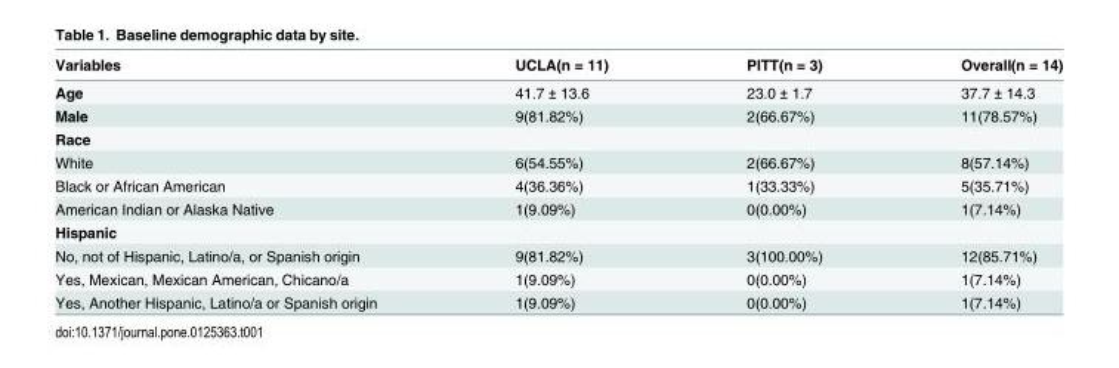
<table><thead><tr><td>Variables</td><td>UCLA(n = 11)</td><td>PITT(n = 3)</td><td>Overall(n = 14)</td></tr></thead><tbody><tr><td>Age</td><td>41.7 ± 13.6</td><td>23.0 ± 1.7</td><td>37.7 ± 14.3</td></tr><tr><td>Male</td><td>9(81.82%)</td><td>2(66.67%)</td><td>11(78.57%)</td></tr><tr><td colspan="4">Race</td></tr><tr><td>White</td><td>6(54.55%)</td><td>2(66.67%)</td><td>8(57.14%)</td></tr><tr><td>Black or African American</td><td>4(36.36%)</td><td>1(33.33%)</td><td>5(35.71%)</td></tr><tr><td>American Indian or Alaska Native</td><td>1(9.09%)</td><td>0(0.00%)</td><td>1(7.14%)</td></tr><tr><td colspan="4">Hispanic</td></tr><tr><td>No, not of Hispanic, Latino/a, or Spanish origin</td><td>9(81.82%)</td><td>3(100.00%)</td><td>12(85.71%)</td></tr><tr><td>Yes, Mexican, Mexican American, Chicano/a</td><td>1(9.09%)</td><td>0(0.00%)</td><td>1(7.14%)</td></tr><tr><td>Yes, Another Hispanic, Latino/a or Spanish origin</td><td>1(9.09%)</td><td>0(0.00%)</td><td>1(7.14%)</td></tr></tbody></table>